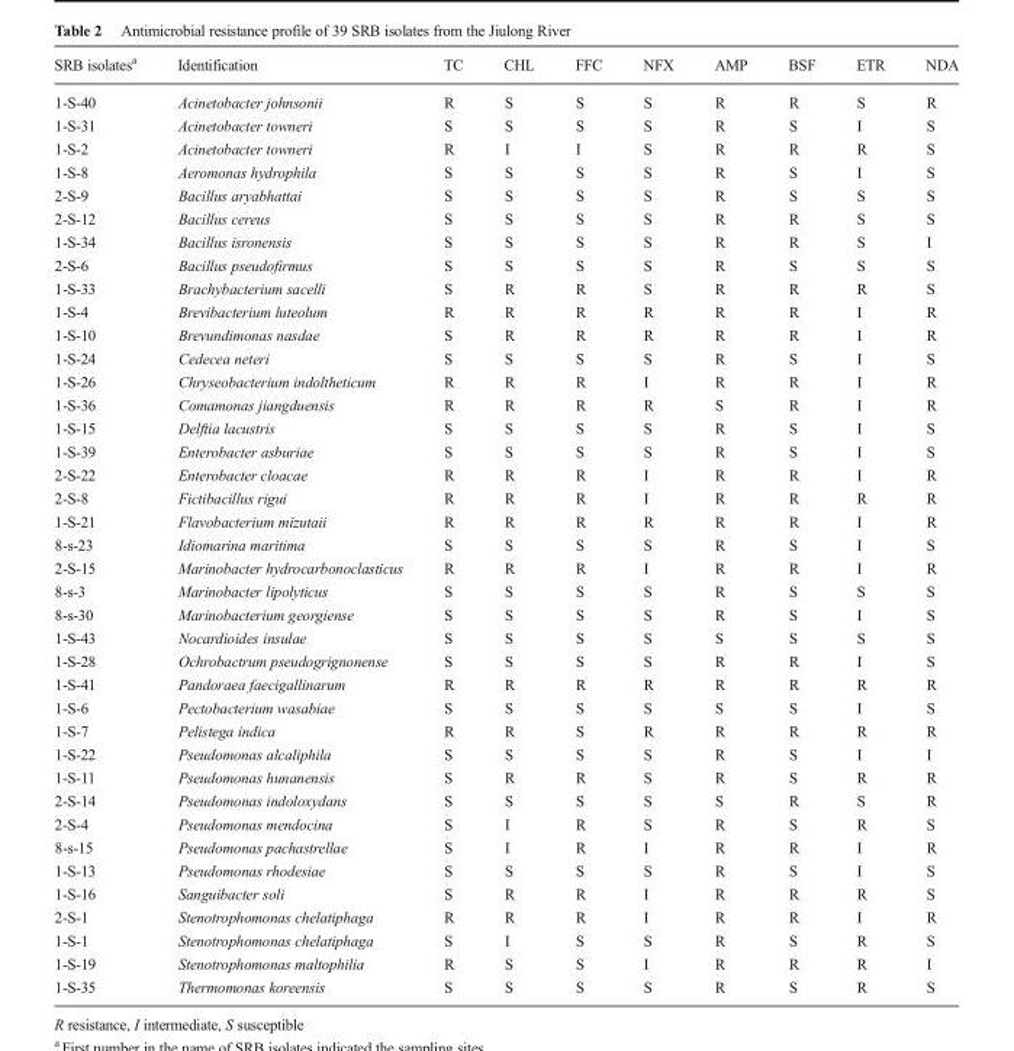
<table><thead><tr><td>SRB isolates<sup>a</sup></td><td>Identification</td><td>TC</td><td>CHL</td><td>FFC</td><td>NFX</td><td>AMP</td><td>BSF</td><td>ETR</td><td>NDA</td></tr></thead><tbody><tr><td>1-S-40</td><td>Acinetobacter johnsonii</td><td>R</td><td>S</td><td>S</td><td>S</td><td>R</td><td>R</td><td>S</td><td>R</td></tr><tr><td>1-S-31</td><td>Acinetobacter towneri</td><td>S</td><td>S</td><td>S</td><td>S</td><td>R</td><td>S</td><td>I</td><td>S</td></tr><tr><td>1-S-2</td><td>Acinetobacter towneri</td><td>R</td><td>I</td><td>I</td><td>S</td><td>R</td><td>R</td><td>R</td><td>S</td></tr><tr><td>1-S-8</td><td>Aeromonas hydrophila</td><td>S</td><td>S</td><td>S</td><td>S</td><td>R</td><td>S</td><td>I</td><td>S</td></tr><tr><td>2-S-9</td><td>Bacillus aryabhattai</td><td>S</td><td>S</td><td>S</td><td>S</td><td>R</td><td>S</td><td>S</td><td>S</td></tr><tr><td>2-S-12</td><td>Bacillus cereus</td><td>S</td><td>S</td><td>S</td><td>S</td><td>R</td><td>R</td><td>S</td><td>S</td></tr><tr><td>1-S-34</td><td>Bacillus isronensis</td><td>S</td><td>S</td><td>S</td><td>S</td><td>R</td><td>R</td><td>S</td><td>I</td></tr><tr><td>2-S-6</td><td>Bacillus pseudofirmus</td><td>S</td><td>S</td><td>S</td><td>S</td><td>R</td><td>S</td><td>S</td><td>S</td></tr><tr><td>1-S-33</td><td>Brachybacterium sacelli</td><td>S</td><td>R</td><td>R</td><td>S</td><td>R</td><td>R</td><td>R</td><td>S</td></tr><tr><td>1-S-4</td><td>Brevibacterium luteolum</td><td>R</td><td>R</td><td>R</td><td>R</td><td>R</td><td>R</td><td>I</td><td>R</td></tr><tr><td>1-S-10</td><td>Brevundimonas nasdae</td><td>S</td><td>R</td><td>R</td><td>R</td><td>R</td><td>R</td><td>I</td><td>R</td></tr><tr><td>1-S-24</td><td>Cedecea neteri</td><td>S</td><td>S</td><td>S</td><td>S</td><td>R</td><td>S</td><td>I</td><td>S</td></tr><tr><td>1-S-26</td><td>Chryseobacterium indoltheticum</td><td>R</td><td>R</td><td>R</td><td>I</td><td>R</td><td>R</td><td>I</td><td>R</td></tr><tr><td>1-S-36</td><td>Comamonas jiangduensis</td><td>R</td><td>R</td><td>R</td><td>R</td><td>S</td><td>R</td><td>I</td><td>R</td></tr><tr><td>1-S-15</td><td>Delftia lacustris</td><td>S</td><td>S</td><td>S</td><td>S</td><td>R</td><td>S</td><td>I</td><td>S</td></tr><tr><td>1-S-39</td><td>Enterobacter asburiae</td><td>S</td><td>S</td><td>S</td><td>S</td><td>R</td><td>S</td><td>I</td><td>S</td></tr><tr><td>2-S-22</td><td>Enterobacter cloacae</td><td>R</td><td>R</td><td>R</td><td>I</td><td>R</td><td>R</td><td>I</td><td>R</td></tr><tr><td>2-S-8</td><td>Fictibacillus rigui</td><td>R</td><td>R</td><td>R</td><td>I</td><td>R</td><td>R</td><td>R</td><td>R</td></tr><tr><td>1-S-21</td><td>Flavobacterium mizutaii</td><td>R</td><td>R</td><td>R</td><td>R</td><td>R</td><td>R</td><td>I</td><td>R</td></tr><tr><td>8-s-23</td><td>Idiomarina maritima</td><td>S</td><td>S</td><td>S</td><td>S</td><td>R</td><td>S</td><td>I</td><td>S</td></tr><tr><td>2-S-15</td><td>Marinobacter hydrocarbonoclasticus</td><td>R</td><td>R</td><td>R</td><td>I</td><td>R</td><td>R</td><td>I</td><td>R</td></tr><tr><td>8-s-3</td><td>Marinobacter lipolyticus</td><td>S</td><td>S</td><td>S</td><td>S</td><td>R</td><td>S</td><td>S</td><td>S</td></tr><tr><td>8-s-30</td><td>Marinobacterium georgiense</td><td>S</td><td>S</td><td>S</td><td>S</td><td>R</td><td>S</td><td>I</td><td>S</td></tr><tr><td>1-S-43</td><td>Nocardioides insulae</td><td>S</td><td>S</td><td>S</td><td>S</td><td>S</td><td>S</td><td>S</td><td>S</td></tr><tr><td>1-S-28</td><td>Ochrobactrum pseudogrignonense</td><td>S</td><td>S</td><td>S</td><td>S</td><td>R</td><td>R</td><td>I</td><td>S</td></tr><tr><td>1-S-41</td><td>Pandoraea faecigallinarum</td><td>R</td><td>R</td><td>R</td><td>R</td><td>R</td><td>R</td><td>R</td><td>R</td></tr><tr><td>1-S-6</td><td>Pectobacterium wasabiae</td><td>S</td><td>S</td><td>S</td><td>S</td><td>S</td><td>S</td><td>I</td><td>S</td></tr><tr><td>1-S-7</td><td>Pelistega indica</td><td>R</td><td>R</td><td>S</td><td>R</td><td>R</td><td>R</td><td>R</td><td>R</td></tr><tr><td>1-S-22</td><td>Pseudomonas alcaliphila</td><td>S</td><td>S</td><td>S</td><td>S</td><td>R</td><td>S</td><td>I</td><td>I</td></tr><tr><td>1-S-11</td><td>Pseudomonas hunanensis</td><td>S</td><td>R</td><td>R</td><td>S</td><td>R</td><td>S</td><td>R</td><td>R</td></tr><tr><td>2-S-14</td><td>Pseudomonas indoloxydans</td><td>S</td><td>S</td><td>S</td><td>S</td><td>S</td><td>R</td><td>S</td><td>R</td></tr><tr><td>2-S-4</td><td>Pseudomonas mendocina</td><td>S</td><td>I</td><td>R</td><td>S</td><td>R</td><td>S</td><td>R</td><td>S</td></tr><tr><td>8-s-15</td><td>Pseudomonas pachastrellae</td><td>S</td><td>I</td><td>R</td><td>I</td><td>R</td><td>R</td><td>I</td><td>R</td></tr><tr><td>1-S-13</td><td>Pseudomonas rhodesiae</td><td>S</td><td>S</td><td>S</td><td>S</td><td>R</td><td>S</td><td>I</td><td>S</td></tr><tr><td>1-S-16</td><td>Sanguibacter soli</td><td>S</td><td>R</td><td>R</td><td>I</td><td>R</td><td>R</td><td>R</td><td>S</td></tr><tr><td>2-S-1</td><td>Stenotrophomonas chelatiphaga</td><td>R</td><td>R</td><td>R</td><td>I</td><td>R</td><td>R</td><td>I</td><td>R</td></tr><tr><td>1-S-1</td><td>Stenotrophomonas chelatiphaga</td><td>S</td><td>I</td><td>S</td><td>S</td><td>R</td><td>S</td><td>R</td><td>S</td></tr><tr><td>1-S-19</td><td>Stenotrophomonas maltophilia</td><td>R</td><td>S</td><td>S</td><td>I</td><td>R</td><td>R</td><td>R</td><td>I</td></tr><tr><td>1-S-35</td><td>Thermomonas koreensis</td><td>S</td><td>S</td><td>S</td><td>S</td><td>R</td><td>S</td><td>R</td><td>S</td></tr></tbody></table>